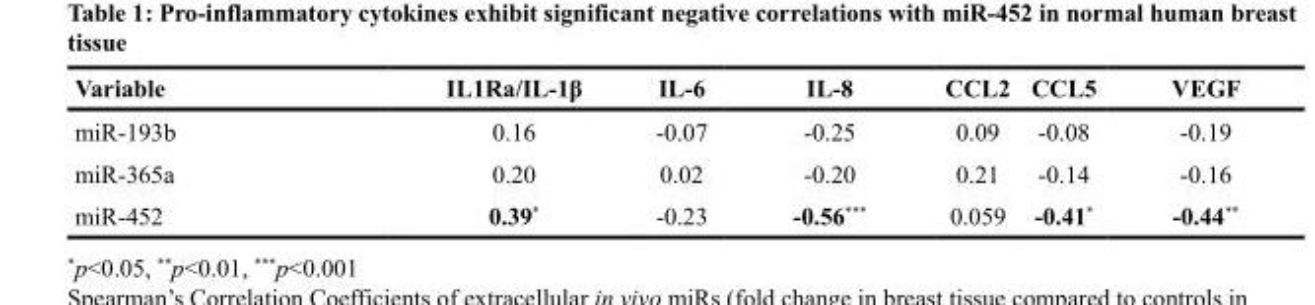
<table><thead><tr><td>Variable</td><td>IL1Ra/IL-1β</td><td>IL-6</td><td>IL-8</td><td>CCL2</td><td>CCL5</td><td>VEGF</td></tr></thead><tbody><tr><td>miR-193b</td><td>0.16</td><td>-0.07</td><td>-0.25</td><td>0.09</td><td>-0.08</td><td>-0.19</td></tr><tr><td>miR-365a</td><td>0.20</td><td>0.02</td><td>-0.20</td><td>0.21</td><td>-0.14</td><td>-0.16</td></tr><tr><td>miR-452</td><td>0.39*</td><td>-0.23</td><td>-0.56***</td><td>0.059</td><td>-0.41*</td><td>-0.44**</td></tr></tbody></table>